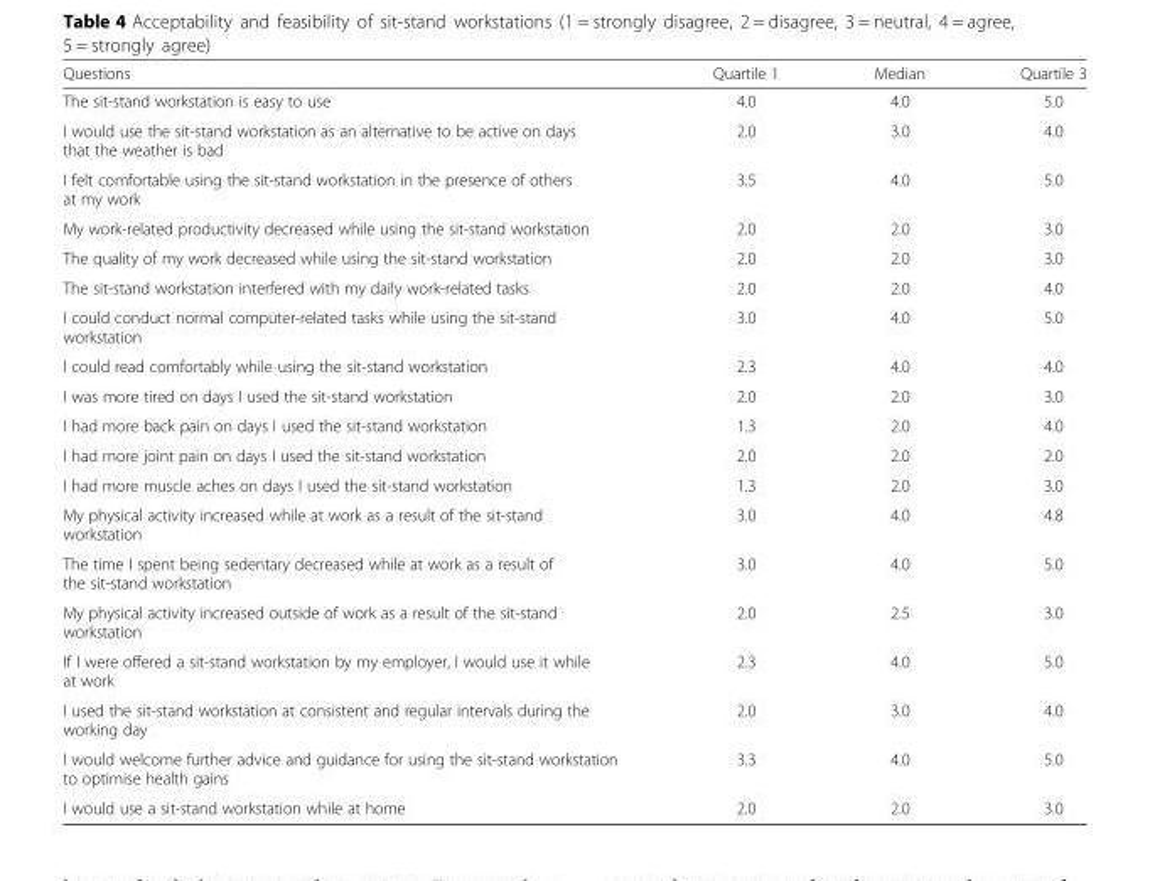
<table><thead><tr><td>Questions</td><td>Quartile 1</td><td>Median</td><td>Quartile 3</td></tr></thead><tbody><tr><td>The sit-stand workstation is easy to use</td><td>4.0</td><td>4.0</td><td>5.0</td></tr><tr><td>I would use the sit-stand workstation as an alternative to be active on days that the weather is bad</td><td>2.0</td><td>3.0</td><td>4.0</td></tr><tr><td>I felt comfortable using the sit-stand workstation in the presence of others at my work</td><td>3.5</td><td>4.0</td><td>5.0</td></tr><tr><td>My work-related productivity decreased while using the sit-stand workstation</td><td>2.0</td><td>2.0</td><td>3.0</td></tr><tr><td>The quality of my work decreased while using the sit-stand workstation</td><td>2.0</td><td>2.0</td><td>3.0</td></tr><tr><td>The sit-stand workstation interfered with my daily work-related tasks</td><td>2.0</td><td>2.0</td><td>4.0</td></tr><tr><td>I could conduct normal computer-related tasks while using the sit-stand workstation</td><td>3.0</td><td>4.0</td><td>5.0</td></tr><tr><td>I could read comfortably while using the sit-stand workstation</td><td>2.3</td><td>4.0</td><td>4.0</td></tr><tr><td>I was more tired on days I used the sit-stand workstation</td><td>2.0</td><td>2.0</td><td>3.0</td></tr><tr><td>I had more back pain on days I used the sit-stand workstation</td><td>1.3</td><td>2.0</td><td>4.0</td></tr><tr><td>I had more joint pain on days I used the sit-stand workstation</td><td>2.0</td><td>2.0</td><td>2.0</td></tr><tr><td>I had more muscle aches on days I used the sit-stand workstation</td><td>1.3</td><td>2.0</td><td>3.0</td></tr><tr><td>My physical activity increased while at work as a result of the sit-stand workstation</td><td>3.0</td><td>4.0</td><td>4.8</td></tr><tr><td>The time I spent being sedentary decreased while at work as a result of the sit-stand workstation</td><td>3.0</td><td>4.0</td><td>5.0</td></tr><tr><td>My physical activity increased outside of work as a result of the sit-stand workstation</td><td>2.0</td><td>2.5</td><td>3.0</td></tr><tr><td>If I were offered a sit-stand workstation by my employer, I would use it while at work</td><td>2.3</td><td>4.0</td><td>5.0</td></tr><tr><td>I used the sit-stand workstation at consistent and regular intervals during the working day</td><td>2.0</td><td>3.0</td><td>4.0</td></tr><tr><td>I would welcome further advice and guidance for using the sit-stand workstation to optimise health gains</td><td>3.3</td><td>4.0</td><td>5.0</td></tr><tr><td>I would use a sit-stand workstation while at home</td><td>2.0</td><td>2.0</td><td>3.0</td></tr></tbody></table>